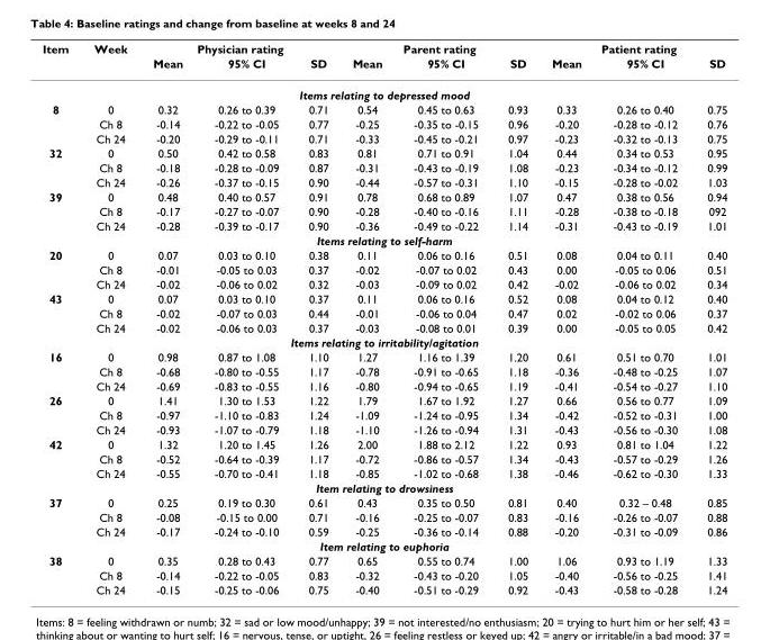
<table><thead><tr><td rowspan="2">Item</td><td rowspan="2">Week</td><td colspan="3">Physician rating</td><td colspan="3">Parent rating</td><td colspan="3">Patient rating</td></tr><tr><td>Mean</td><td>95% CI</td><td>SD</td><td>Mean</td><td>95% CI</td><td>SD</td><td>Mean</td><td>95% CI</td><td>SD</td></tr></thead><tbody><tr><td colspan="11">Items relating to depressed mood</td></tr><tr><td rowspan="3">8</td><td>0</td><td>0.32</td><td>0.26 to 0.39</td><td>0.71</td><td>0.54</td><td>0.45 to 0.63</td><td>0.93</td><td>0.33</td><td>0.26 to 0.40</td><td>0.75</td></tr><tr><td>Ch 8</td><td>-0.14</td><td>-0.22 to -0.05</td><td>0.77</td><td>-0.25</td><td>-0.35 to -0.15</td><td>0.96</td><td>-0.20</td><td>-0.28 to -0.12</td><td>0.76</td></tr><tr><td>Ch 24</td><td>-0.20</td><td>-0.29 to -0.11</td><td>0.71</td><td>-0.33</td><td>-0.45 to -0.21</td><td>0.97</td><td>-0.23</td><td>-0.32 to -0.13</td><td>0.75</td></tr><tr><td rowspan="3">32</td><td>0</td><td>0.50</td><td>0.42 to 0.58</td><td>0.83</td><td>0.81</td><td>0.71 to 0.91</td><td>1.04</td><td>0.44</td><td>0.34 to 0.53</td><td>0.95</td></tr><tr><td>Ch 8</td><td>-0.18</td><td>-0.28 to -0.09</td><td>0.87</td><td>-0.31</td><td>-0.43 to -0.19</td><td>1.08</td><td>-0.23</td><td>-0.34 to -0.12</td><td>0.99</td></tr><tr><td>Ch 24</td><td>-0.26</td><td>-0.37 to -0.15</td><td>0.90</td><td>-0.44</td><td>-0.57 to -0.31</td><td>1.10</td><td>-0.15</td><td>-0.28 to -0.02</td><td>1.03</td></tr><tr><td rowspan="3">39</td><td>0</td><td>0.48</td><td>0.40 to 0.57</td><td>0.91</td><td>0.78</td><td>0.68 to 0.89</td><td>1.07</td><td>0.47</td><td>0.38 to 0.56</td><td>0.94</td></tr><tr><td>Ch 8</td><td>-0.17</td><td>-0.27 to -0.07</td><td>0.90</td><td>-0.28</td><td>-0.40 to -0.16</td><td>1.11</td><td>-0.28</td><td>-0.38 to -0.18</td><td>092</td></tr><tr><td>Ch 24</td><td>-0.28</td><td>-0.39 to -0.17</td><td>0.90</td><td>-0.36</td><td>-0.49 to -0.22</td><td>1.14</td><td>-0.31</td><td>-0.43 to -0.19</td><td>1.01</td></tr><tr><td colspan="11">Items relating to self-harm</td></tr><tr><td rowspan="3">20</td><td>0</td><td>0.07</td><td>0.03 to 0.10</td><td>0.38</td><td>0.11</td><td>0.06 to 0.16</td><td>0.51</td><td>0.08</td><td>0.04 to 0.11</td><td>0.40</td></tr><tr><td>Ch 8</td><td>-0.01</td><td>-0.05 to 0.03</td><td>0.37</td><td>-0.02</td><td>-0.07 to 0.02</td><td>0.43</td><td>0.00</td><td>-0.05 to 0.06</td><td>0.51</td></tr><tr><td>Ch 24</td><td>-0.02</td><td>-0.06 to 0.02</td><td>0.32</td><td>-0.03</td><td>-0.09 to 0.02</td><td>0.42</td><td>-0.02</td><td>-0.06 to 0.02</td><td>0.34</td></tr><tr><td rowspan="3">43</td><td>0</td><td>0.07</td><td>0.03 to 0.10</td><td>0.37</td><td>0.11</td><td>0.06 to 0.16</td><td>0.52</td><td>0.08</td><td>0.04 to 0.12</td><td>0.40</td></tr><tr><td>Ch 8</td><td>-0.02</td><td>-0.07 to 0.03</td><td>0.44</td><td>-0.01</td><td>-0.06 to 0.04</td><td>0.47</td><td>0.02</td><td>-0.02 to 0.06</td><td>0.37</td></tr><tr><td>Ch 24</td><td>-0.02</td><td>-0.06 to 0.03</td><td>0.37</td><td>-0.03</td><td>-0.08 to 0.01</td><td>0.39</td><td>0.00</td><td>-0.05 to 0.05</td><td>0.42</td></tr><tr><td colspan="11">Items relating to irritability/agitation</td></tr><tr><td rowspan="3">16</td><td>0</td><td>0.98</td><td>0.87 to 1.08</td><td>1.10</td><td>1.27</td><td>1.16 to 1.39</td><td>1.20</td><td>0.61</td><td>0.51 to 0.70</td><td>1.01</td></tr><tr><td>Ch 8</td><td>-0.68</td><td>-0.80 to -0.55</td><td>1.17</td><td>-0.78</td><td>-0.91 to -0.65</td><td>1.18</td><td>-0.36</td><td>-0.48 to -0.25</td><td>1.07</td></tr><tr><td>Ch 24</td><td>-0.69</td><td>-0.83 to -0.55</td><td>1.16</td><td>-0.80</td><td>-0.94 to -0.65</td><td>1.19</td><td>-0.41</td><td>-0.54 to -0.27</td><td>1.10</td></tr><tr><td rowspan="3">26</td><td>0</td><td>1.41</td><td>1.30 to 1.53</td><td>1.22</td><td>1.79</td><td>1.67 to 1.92</td><td>1.27</td><td>0.66</td><td>0.56 to 0.77</td><td>1.09</td></tr><tr><td>Ch 8</td><td>-0.97</td><td>-1.10 to -0.83</td><td>1.24</td><td>-1.09</td><td>-1.24 to -0.95</td><td>1.34</td><td>-0.42</td><td>-0.52 to -0.31</td><td>1.00</td></tr><tr><td>Ch 24</td><td>-0.93</td><td>-1.07 to -0.79</td><td>1.18</td><td>-1.10</td><td>-1.26 to -0.94</td><td>1.31</td><td>-0.43</td><td>-0.56 to -0.30</td><td>1.08</td></tr><tr><td rowspan="3">42</td><td>0</td><td>1.32</td><td>1.20 to 1.45</td><td>1.26</td><td>2.00</td><td>1.88 to 2.12</td><td>1.22</td><td>0.93</td><td>0.81 to 1.04</td><td>1.22</td></tr><tr><td>Ch 8</td><td>-0.52</td><td>-0.64 to -0.39</td><td>1.17</td><td>-0.72</td><td>-0.86 to -0.57</td><td>1.34</td><td>-0.43</td><td>-0.57 to -0.29</td><td>1.26</td></tr><tr><td>Ch 24</td><td>-0.55</td><td>-0.70 to -0.41</td><td>1.18</td><td>-0.85</td><td>-1.02 to -0.68</td><td>1.38</td><td>-0.46</td><td>-0.62 to -0.30</td><td>1.33</td></tr><tr><td colspan="11">Item relating to drowsiness</td></tr><tr><td rowspan="3">37</td><td>0</td><td>0.25</td><td>0.19 to 0.30</td><td>0.61</td><td>0.43</td><td>0.35 to 0.50</td><td>0.81</td><td>0.40</td><td>0.32 – 0.48</td><td>0.85</td></tr><tr><td>Ch 8</td><td>-0.08</td><td>-0.15 to 0.00</td><td>0.71</td><td>-0.16</td><td>-0.25 to -0.07</td><td>0.83</td><td>-0.16</td><td>-0.26 to -0.07</td><td>0.88</td></tr><tr><td>Ch 24</td><td>-0.17</td><td>-0.24 to -0.10</td><td>0.59</td><td>-0.25</td><td>-0.36 to -0.14</td><td>0.88</td><td>-0.20</td><td>-0.31 to -0.09</td><td>0.86</td></tr><tr><td colspan="11">Item relating to euphoria</td></tr><tr><td rowspan="3">38</td><td>0</td><td>0.35</td><td>0.28 to 0.43</td><td>0.77</td><td>0.65</td><td>0.55 to 0.74</td><td>1.00</td><td>1.06</td><td>0.93 to 1.19</td><td>1.33</td></tr><tr><td>Ch 8</td><td>-0.14</td><td>-0.22 to -0.05</td><td>0.83</td><td>-0.32</td><td>-0.43 to -0.20</td><td>1.05</td><td>-0.40</td><td>-0.56 to -0.25</td><td>1.41</td></tr><tr><td>Ch 24</td><td>-0.15</td><td>-0.25 to -0.06</td><td>0.75</td><td>-0.40</td><td>-0.51 to -0.29</td><td>0.92</td><td>-0.43</td><td>-0.58 to -0.28</td><td>1.24</td></tr></tbody></table>